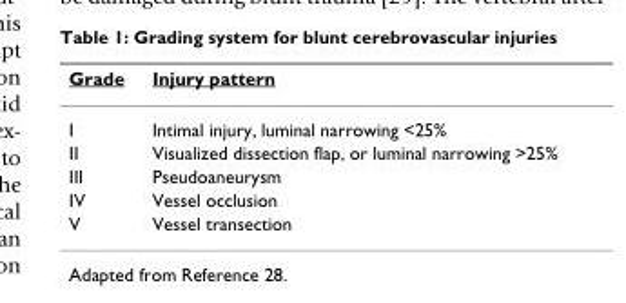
<table><thead><tr><td>Grade</td><td>Injury pattern</td></tr></thead><tbody><tr><td>I</td><td>Intimal injury, luminal narrowing &lt;25%</td></tr><tr><td>II</td><td>Visualized dissection flap, or luminal narrowing &gt;25%</td></tr><tr><td>III</td><td>Pseudoaneurysm</td></tr><tr><td>IV</td><td>Vessel occlusion</td></tr><tr><td>V</td><td>Vessel transection</td></tr></tbody></table>